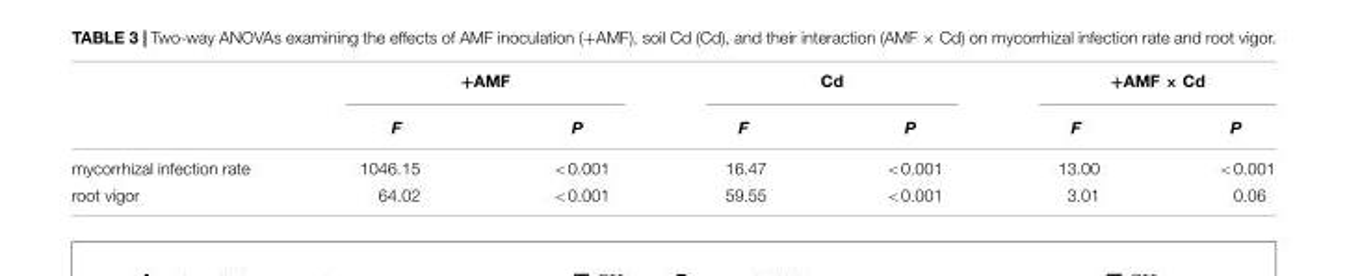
<table><thead><tr><td rowspan="2"></td><td colspan="2">+AMF</td><td colspan="2">Cd</td><td colspan="2">+AMF × Cd</td></tr><tr><td>F</td><td>P</td><td>F</td><td>P</td><td>F</td><td>P</td></tr></thead><tbody><tr><td>mycorrhizal infection rate</td><td>1046.15</td><td>&lt;0.001</td><td>16.47</td><td>&lt;0.001</td><td>13.00</td><td>&lt;0.001</td></tr><tr><td>root vigor</td><td>64.02</td><td>&lt;0.001</td><td>59.55</td><td>&lt;0.001</td><td>3.01</td><td>0.06</td></tr></tbody></table>